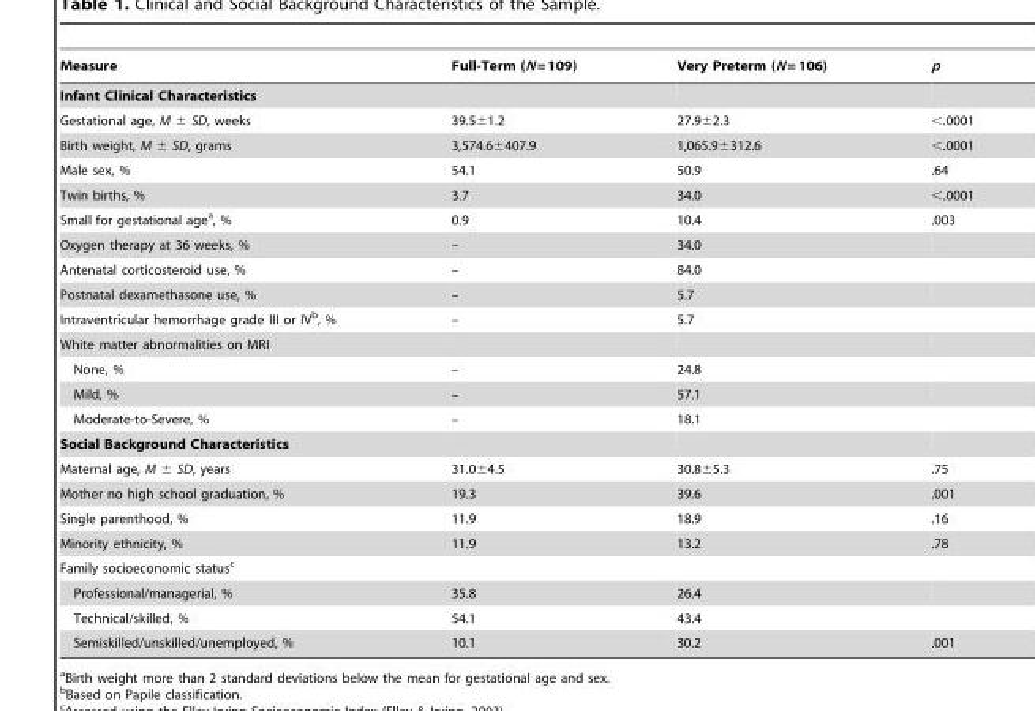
<table><thead><tr><td>Measure</td><td>Full-Term (N = 109)</td><td>Very Preterm (N = 106)</td><td>p</td></tr></thead><tbody><tr><td colspan="4">Infant Clinical Characteristics</td></tr><tr><td>Gestational age, M ± SD, weeks</td><td>39.5±1.2</td><td>27.9±2.3</td><td>&lt;.0001</td></tr><tr><td>Birth weight, M ± SD, grams</td><td>3,574.6±407.9</td><td>1,065.9±312.6</td><td>&lt;.0001</td></tr><tr><td>Male sex, %</td><td>54.1</td><td>50.9</td><td>.64</td></tr><tr><td>Twin births, %</td><td>3.7</td><td>34.0</td><td>&lt;.0001</td></tr><tr><td>Small for gestational age<sup>a</sup>, %</td><td>0.9</td><td>10.4</td><td>.003</td></tr><tr><td>Oxygen therapy at 36 weeks, %</td><td>–</td><td>34.0</td><td></td></tr><tr><td>Antenatal corticosteroid use, %</td><td>–</td><td>84.0</td><td></td></tr><tr><td>Postnatal dexamethasone use, %</td><td>–</td><td>5.7</td><td></td></tr><tr><td>Intraventricular hemorrhage grade III or IV<sup>b</sup>, %</td><td>–</td><td>5.7</td><td></td></tr><tr><td colspan="4">White matter abnormalities on MRI</td></tr><tr><td>None, %</td><td>–</td><td>24.8</td><td></td></tr><tr><td>Mild, %</td><td>–</td><td>57.1</td><td></td></tr><tr><td>Moderate-to-Severe, %</td><td>–</td><td>18.1</td><td></td></tr><tr><td colspan="4">Social Background Characteristics</td></tr><tr><td>Maternal age, M ± SD, years</td><td>31.0±4.5</td><td>30.8±5.3</td><td>.75</td></tr><tr><td>Mother no high school graduation, %</td><td>19.3</td><td>39.6</td><td>.001</td></tr><tr><td>Single parenthood, %</td><td>11.9</td><td>18.9</td><td>.16</td></tr><tr><td>Minority ethnicity, %</td><td>11.9</td><td>13.2</td><td>.78</td></tr><tr><td colspan="4">Family socioeconomic status<sup>c</sup></td></tr><tr><td>Professional/managerial, %</td><td>35.8</td><td>26.4</td><td></td></tr><tr><td>Technical/skilled, %</td><td>54.1</td><td>43.4</td><td></td></tr><tr><td>Semiskilled/unskilled/unemployed, %</td><td>10.1</td><td>30.2</td><td>.001</td></tr></tbody></table>